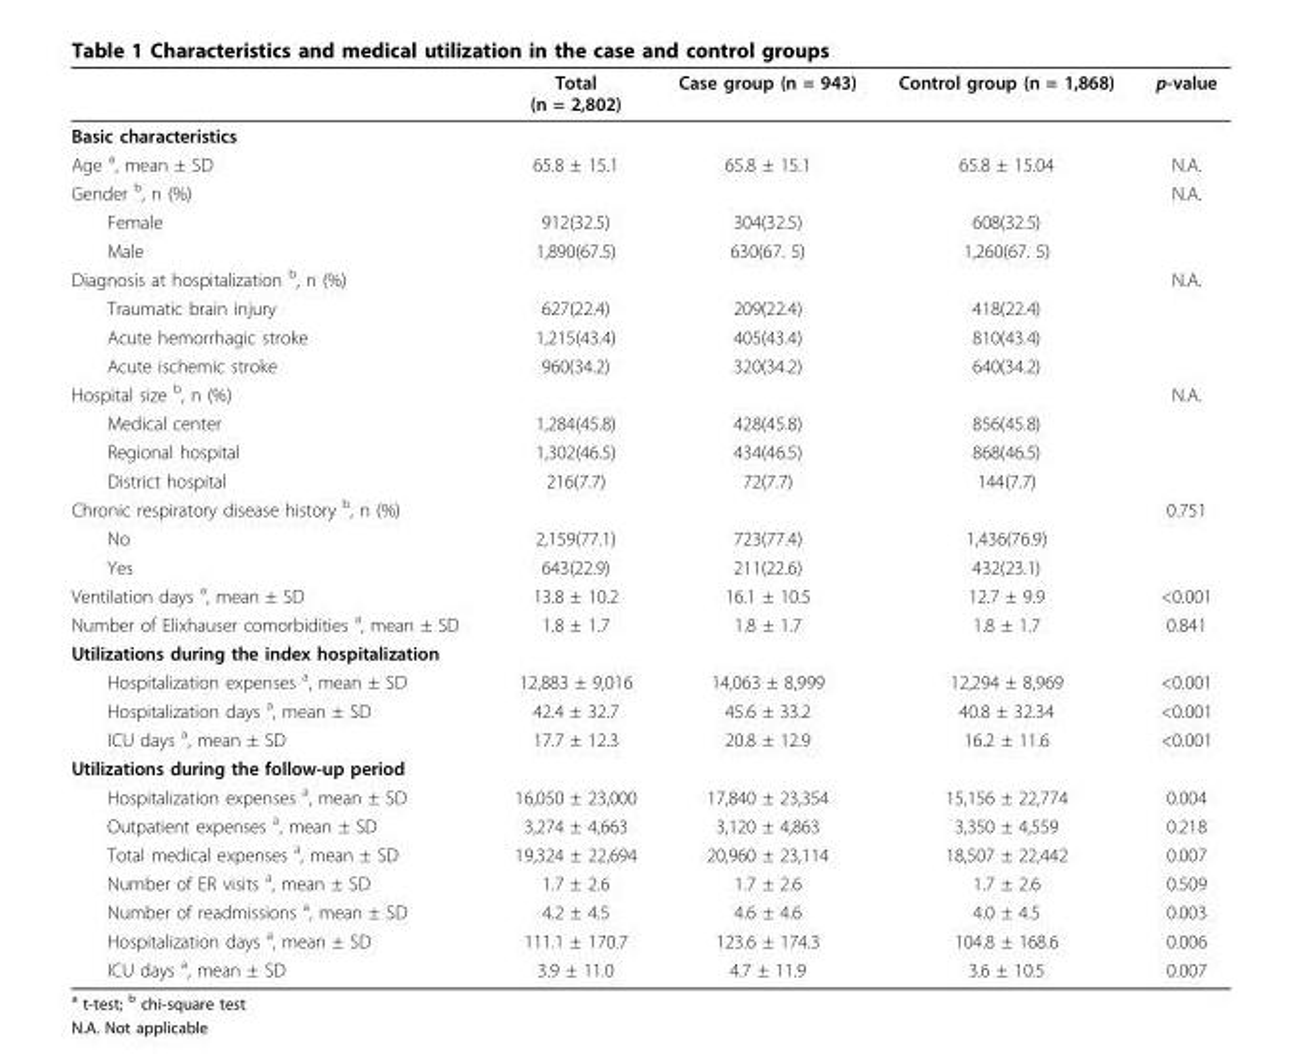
<table><thead><tr><td></td><td>Total (n = 2,802)</td><td>Case group (n = 943)</td><td>Control group (n = 1,868)</td><td>p-value</td></tr></thead><tbody><tr><td colspan="5">Basic characteristics</td></tr><tr><td>Age <sup>a</sup>, mean ± SD</td><td>65.8 ± 15.1</td><td>65.8 ± 15.1</td><td>65.8 ± 15.04</td><td>N.A.</td></tr><tr><td>Gender <sup>b</sup>, n (%)</td><td></td><td></td><td></td><td>N.A.</td></tr><tr><td>Female</td><td>912(32.5)</td><td>304(32.5)</td><td>608(32.5)</td><td></td></tr><tr><td>Male</td><td>1,890(67.5)</td><td>630(67. 5)</td><td>1,260(67. 5)</td><td></td></tr><tr><td>Diagnosis at hospitalization <sup>b</sup>, n (%)</td><td></td><td></td><td></td><td>N.A.</td></tr><tr><td>Traumatic brain injury</td><td>627(22.4)</td><td>209(22.4)</td><td>418(22.4)</td><td></td></tr><tr><td>Acute hemorrhagic stroke</td><td>1,215(43.4)</td><td>405(43.4)</td><td>810(43.4)</td><td></td></tr><tr><td>Acute ischemic stroke</td><td>960(34.2)</td><td>320(34.2)</td><td>640(34.2)</td><td></td></tr><tr><td>Hospital size <sup>b</sup>, n (%)</td><td></td><td></td><td></td><td>N.A.</td></tr><tr><td>Medical center</td><td>1,284(45.8)</td><td>428(45.8)</td><td>856(45.8)</td><td></td></tr><tr><td>Regional hospital</td><td>1,302(46.5)</td><td>434(46.5)</td><td>868(46.5)</td><td></td></tr><tr><td>District hospital</td><td>216(7.7)</td><td>72(7.7)</td><td>144(7.7)</td><td></td></tr><tr><td>Chronic respiratory disease history <sup>b</sup>, n (%)</td><td></td><td></td><td></td><td>0.751</td></tr><tr><td>No</td><td>2,159(77.1)</td><td>723(77.4)</td><td>1,436(76.9)</td><td></td></tr><tr><td>Yes</td><td>643(22.9)</td><td>211(22.6)</td><td>432(23.1)</td><td></td></tr><tr><td>Ventilation days <sup>a</sup>, mean ± SD</td><td>13.8 ± 10.2</td><td>16.1 ± 10.5</td><td>12.7 ± 9.9</td><td>&lt;0.001</td></tr><tr><td>Number of Elixhauser comorbidities <sup>a</sup>, mean ± SD</td><td>1.8 ± 1.7</td><td>1.8 ± 1.7</td><td>1.8 ± 1.7</td><td>0.841</td></tr><tr><td colspan="5">Utilizations during the index hospitalization</td></tr><tr><td>Hospitalization expenses <sup>a</sup>, mean ± SD</td><td>12,883 ± 9,016</td><td>14,063 ± 8,999</td><td>12,294 ± 8,969</td><td>&lt;0.001</td></tr><tr><td>Hospitalization days <sup>a</sup>, mean ± SD</td><td>42.4 ± 32.7</td><td>45.6 ± 33.2</td><td>40.8 ± 32.34</td><td>&lt;0.001</td></tr><tr><td>ICU days <sup>a</sup>, mean ± SD</td><td>17.7 ± 12.3</td><td>20.8 ± 12.9</td><td>16.2 ± 11.6</td><td>&lt;0.001</td></tr><tr><td colspan="5">Utilizations during the follow-up period</td></tr><tr><td>Hospitalization expenses <sup>a</sup>, mean ± SD</td><td>16,050 ± 23,000</td><td>17,840 ± 23,354</td><td>15,156 ± 22,774</td><td>0.004</td></tr><tr><td>Outpatient expenses <sup>a</sup>, mean ± SD</td><td>3,274 ± 4,663</td><td>3,120 ± 4,863</td><td>3,350 ± 4,559</td><td>0.218</td></tr><tr><td>Total medical expenses <sup>a</sup>, mean ± SD</td><td>19,324 ± 22,694</td><td>20,960 ± 23,114</td><td>18,507 ± 22,442</td><td>0.007</td></tr><tr><td>Number of ER visits <sup>a</sup>, mean ± SD</td><td>1.7 ± 2.6</td><td>1.7 ± 2.6</td><td>1.7 ± 2.6</td><td>0.509</td></tr><tr><td>Number of readmissions <sup>a</sup>, mean ± SD</td><td>4.2 ± 4.5</td><td>4.6 ± 4.6</td><td>4.0 ± 4.5</td><td>0.003</td></tr><tr><td>Hospitalization days <sup>a</sup>, mean ± SD</td><td>111.1 ± 170.7</td><td>123.6 ± 174.3</td><td>104.8 ± 168.6</td><td>0.006</td></tr><tr><td>ICU days <sup>a</sup>, mean ± SD</td><td>3.9 ± 11.0</td><td>4.7 ± 11.9</td><td>3.6 ± 10.5</td><td>0.007</td></tr></tbody></table>